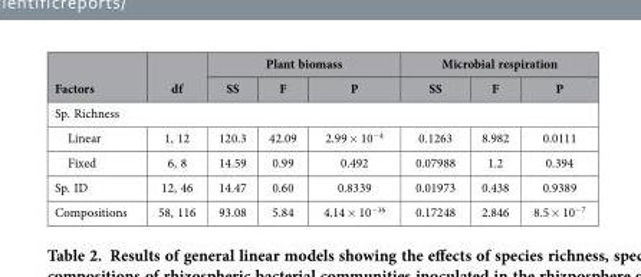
<table><thead><tr><td rowspan="2">Factors</td><td rowspan="2">df</td><td colspan="3">Plant biomass</td><td colspan="3">Microbial respiration</td></tr><tr><td>SS</td><td>F</td><td>P</td><td>SS</td><td>F</td><td>P</td></tr></thead><tbody><tr><td colspan="8">Sp. Richness</td></tr><tr><td>Linear</td><td>1, 12</td><td>120.3</td><td>42.09</td><td>2.99 × 10<sup>−4</sup></td><td>0.1263</td><td>8.982</td><td>0.0111</td></tr><tr><td>Fixed</td><td>6, 8</td><td>14.59</td><td>0.99</td><td>0.492</td><td>0.07988</td><td>1.2</td><td>0.394</td></tr><tr><td>Sp. ID</td><td>12, 46</td><td>14.47</td><td>0.60</td><td>0.8339</td><td>0.01973</td><td>0.438</td><td>0.9389</td></tr><tr><td>Compositions</td><td>58, 116</td><td>93.08</td><td>5.84</td><td>4.14 × 10<sup>−16</sup></td><td>0.17248</td><td>2.846</td><td>8.5 × 10<sup>−7</sup></td></tr></tbody></table>